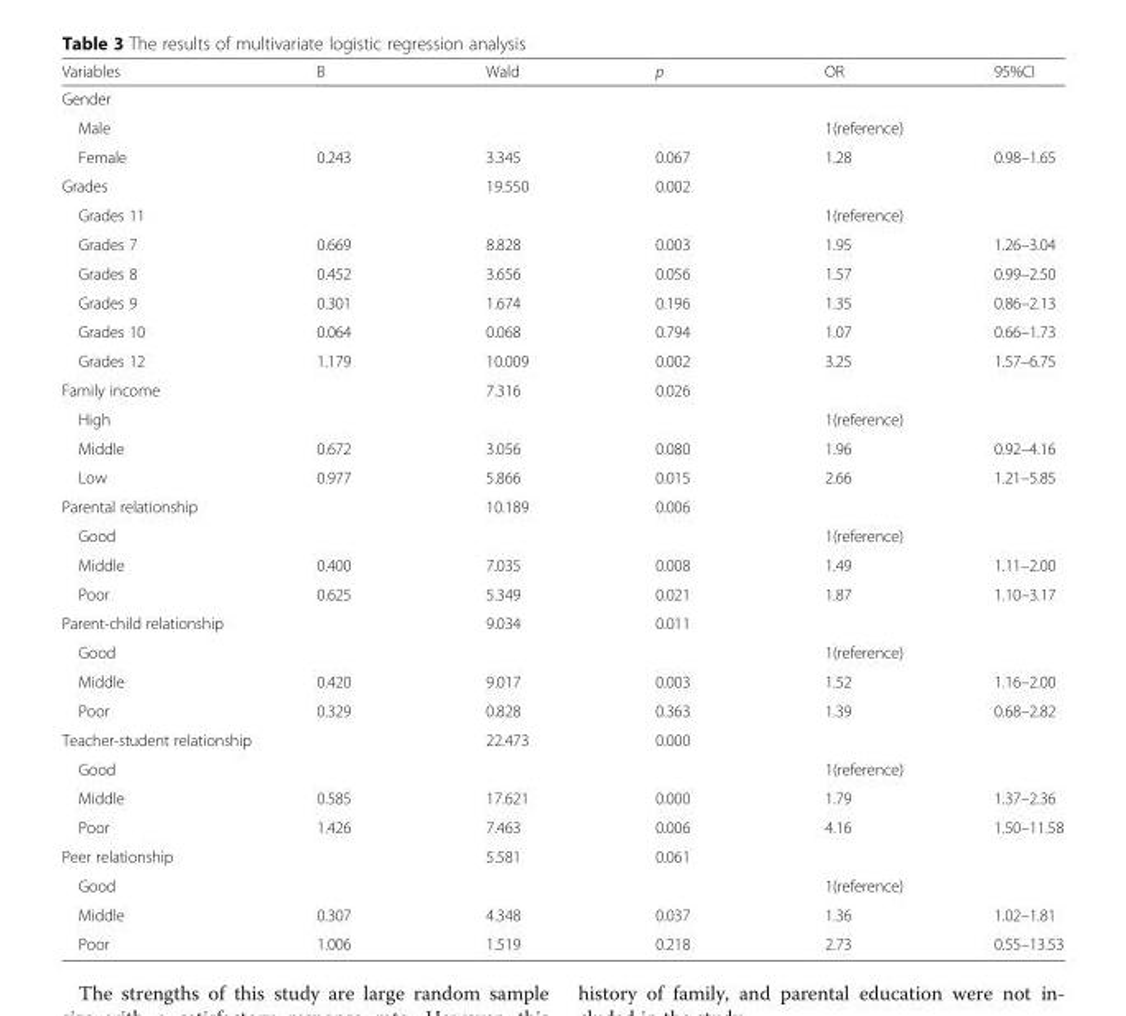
<table><thead><tr><td>Variables</td><td>B</td><td>Wald</td><td>p</td><td>OR</td><td>95%CI</td></tr></thead><tbody><tr><td colspan="6">Gender</td></tr><tr><td>Male</td><td></td><td></td><td></td><td>1(reference)</td><td></td></tr><tr><td>Female</td><td>0.243</td><td>3.345</td><td>0.067</td><td>1.28</td><td>0.98–1.65</td></tr><tr><td>Grades</td><td></td><td>19.550</td><td>0.002</td><td></td><td></td></tr><tr><td>Grades 11</td><td></td><td></td><td></td><td>1(reference)</td><td></td></tr><tr><td>Grades 7</td><td>0.669</td><td>8.828</td><td>0.003</td><td>1.95</td><td>1.26–3.04</td></tr><tr><td>Grades 8</td><td>0.452</td><td>3.656</td><td>0.056</td><td>1.57</td><td>0.99–2.50</td></tr><tr><td>Grades 9</td><td>0.301</td><td>1.674</td><td>0.196</td><td>1.35</td><td>0.86–2.13</td></tr><tr><td>Grades 10</td><td>0.064</td><td>0.068</td><td>0.794</td><td>1.07</td><td>0.66–1.73</td></tr><tr><td>Grades 12</td><td>1.179</td><td>10.009</td><td>0.002</td><td>3.25</td><td>1.57–6.75</td></tr><tr><td>Family income</td><td></td><td>7.316</td><td>0.026</td><td></td><td></td></tr><tr><td>High</td><td></td><td></td><td></td><td>1(reference)</td><td></td></tr><tr><td>Middle</td><td>0.672</td><td>3.056</td><td>0.080</td><td>1.96</td><td>0.92–4.16</td></tr><tr><td>Low</td><td>0.977</td><td>5.866</td><td>0.015</td><td>2.66</td><td>1.21–5.85</td></tr><tr><td>Parental relationship</td><td></td><td>10.189</td><td>0.006</td><td></td><td></td></tr><tr><td>Good</td><td></td><td></td><td></td><td>1(reference)</td><td></td></tr><tr><td>Middle</td><td>0.400</td><td>7.035</td><td>0.008</td><td>1.49</td><td>1.11–2.00</td></tr><tr><td>Poor</td><td>0.625</td><td>5.349</td><td>0.021</td><td>1.87</td><td>1.10–3.17</td></tr><tr><td>Parent-child relationship</td><td></td><td>9.034</td><td>0.011</td><td></td><td></td></tr><tr><td>Good</td><td></td><td></td><td></td><td>1(reference)</td><td></td></tr><tr><td>Middle</td><td>0.420</td><td>9.017</td><td>0.003</td><td>1.52</td><td>1.16–2.00</td></tr><tr><td>Poor</td><td>0.329</td><td>0.828</td><td>0.363</td><td>1.39</td><td>0.68–2.82</td></tr><tr><td>Teacher-student relationship</td><td></td><td>22.473</td><td>0.000</td><td></td><td></td></tr><tr><td>Good</td><td></td><td></td><td></td><td>1(reference)</td><td></td></tr><tr><td>Middle</td><td>0.585</td><td>17.621</td><td>0.000</td><td>1.79</td><td>1.37–2.36</td></tr><tr><td>Poor</td><td>1.426</td><td>7.463</td><td>0.006</td><td>4.16</td><td>1.50–11.58</td></tr><tr><td>Peer relationship</td><td></td><td>5.581</td><td>0.061</td><td></td><td></td></tr><tr><td>Good</td><td></td><td></td><td></td><td>1(reference)</td><td></td></tr><tr><td>Middle</td><td>0.307</td><td>4.348</td><td>0.037</td><td>1.36</td><td>1.02–1.81</td></tr><tr><td>Poor</td><td>1.006</td><td>1.519</td><td>0.218</td><td>2.73</td><td>0.55–13.53</td></tr></tbody></table>